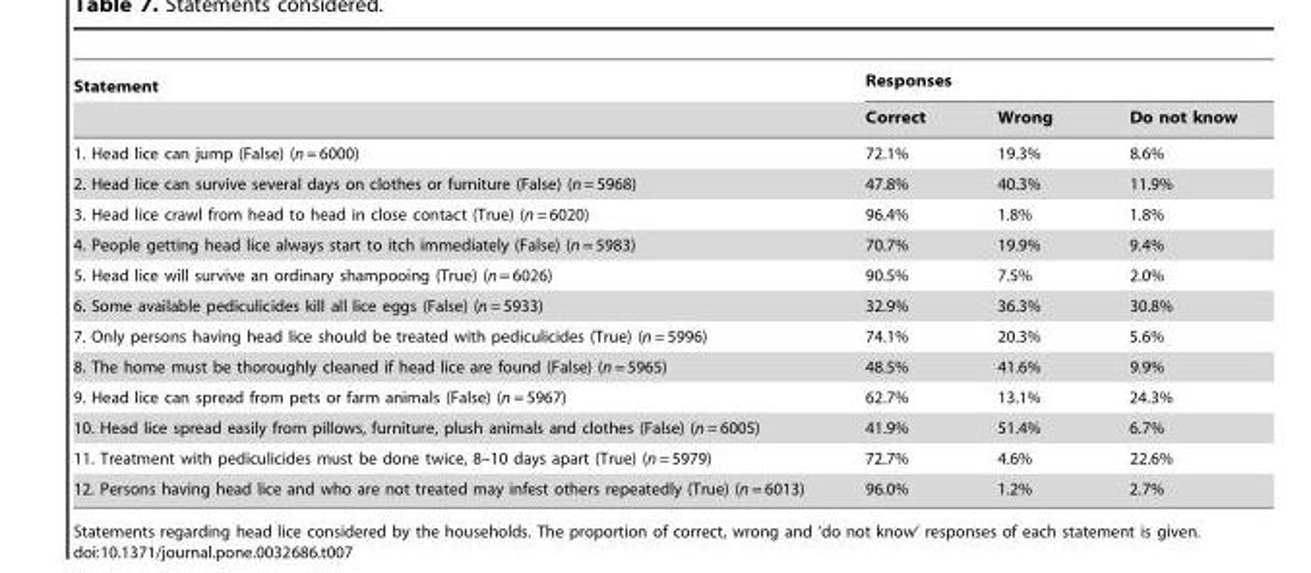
<table><thead><tr><td rowspan="2">Statement</td><td colspan="3">Responses</td></tr><tr><td>Correct</td><td>Wrong</td><td>Do not know</td></tr></thead><tbody><tr><td>1. Head lice can jump (False) (n = 6000)</td><td>72.1%</td><td>19.3%</td><td>8.6%</td></tr><tr><td>2. Head lice can survive several days on clothes or furniture (False) (n = 5968)</td><td>47.8%</td><td>40.3%</td><td>11.9%</td></tr><tr><td>3. Head lice crawl from head to head in close contact (True) (n = 6020)</td><td>96.4%</td><td>1.8%</td><td>1.8%</td></tr><tr><td>4. People getting head lice always start to itch immediately (False) (n = 5983)</td><td>70.7%</td><td>19.9%</td><td>9.4%</td></tr><tr><td>5. Head lice will survive an ordinary shampooing (True) (n = 6026)</td><td>90.5%</td><td>7.5%</td><td>2.0%</td></tr><tr><td>6. Some available pediculicides kill all lice eggs (False) (n = 5933)</td><td>32.9%</td><td>36.3%</td><td>30.8%</td></tr><tr><td>7. Only persons having head lice should be treated with pediculicides (True) (n = 5996)</td><td>74.1%</td><td>20.3%</td><td>5.6%</td></tr><tr><td>8. The home must be thoroughly cleaned if head lice are found (False) (n = 5965)</td><td>48.5%</td><td>41.6%</td><td>9.9%</td></tr><tr><td>9. Head lice can spread from pets or farm animals (False) (n = 5967)</td><td>62.7%</td><td>13.1%</td><td>24.3%</td></tr><tr><td>10. Head lice spread easily from pillows, furniture, plush animals and clothes (False) (n = 6005)</td><td>41.9%</td><td>51.4%</td><td>6.7%</td></tr><tr><td>11. Treatment with pediculicides must be done twice, 8–10 days apart (True) (n = 5979)</td><td>72.7%</td><td>4.6%</td><td>22.6%</td></tr><tr><td>12. Persons having head lice and who are not treated may infest others repeatedly (True) (n = 6013)</td><td>96.0%</td><td>1.2%</td><td>2.7%</td></tr></tbody></table>